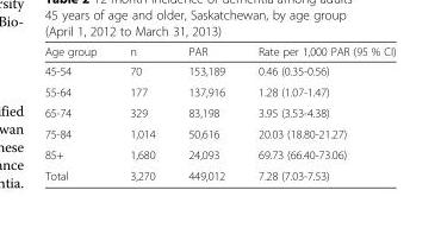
<table><thead><tr><td>Age group</td><td>n</td><td>PAR</td><td>Rate per 1,000 PAR (95 % CI)</td></tr></thead><tbody><tr><td>45-54</td><td>70</td><td>153,189</td><td>0.46 (0.35-0.56)</td></tr><tr><td>55-64</td><td>177</td><td>137,916</td><td>1.28 (1.07-1.47)</td></tr><tr><td>65-74</td><td>329</td><td>83,198</td><td>3.95 (3.53-4.38)</td></tr><tr><td>75-84</td><td>1,014</td><td>50,616</td><td>20.03 (18.80-21.27)</td></tr><tr><td>85+</td><td>1,680</td><td>24,093</td><td>69.73 (66.40-73.06)</td></tr><tr><td>Total</td><td>3,270</td><td>449,012</td><td>7.28 (7.03-7.53)</td></tr></tbody></table>